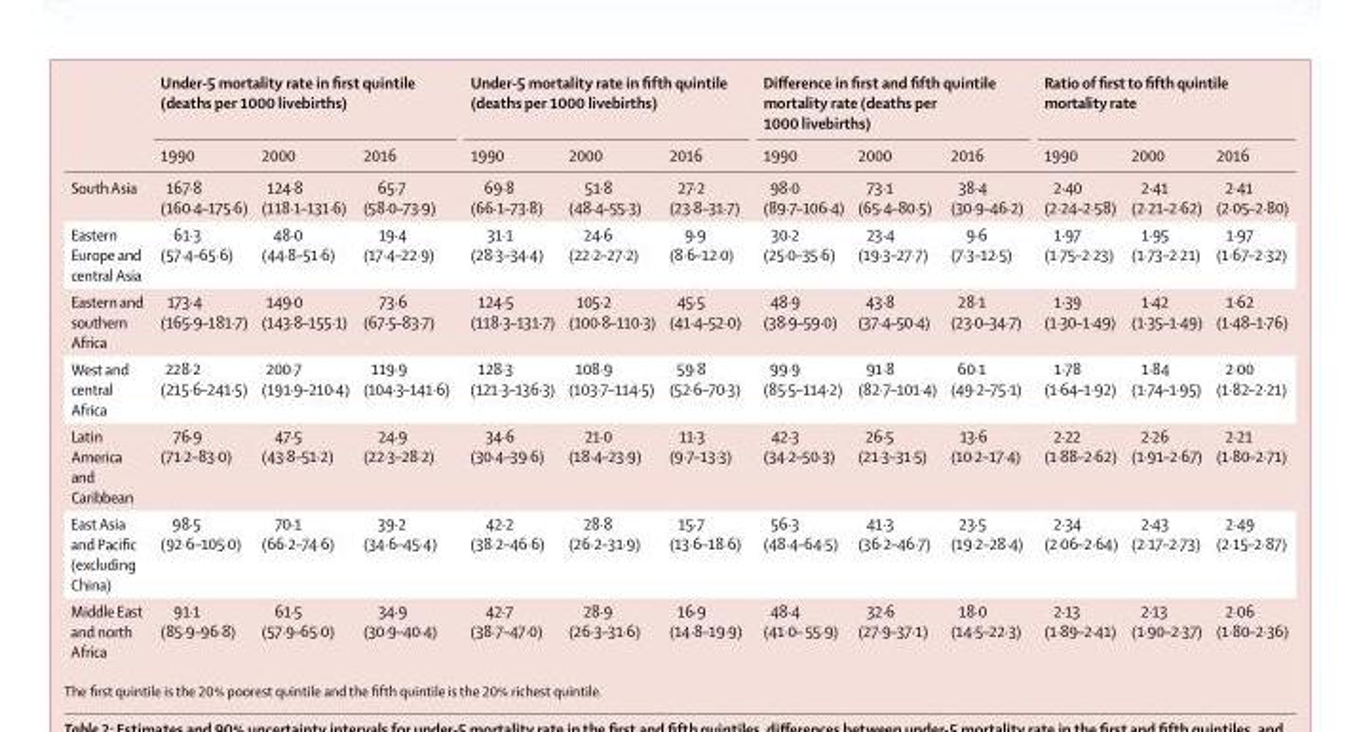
<table><thead><tr><td rowspan="2"></td><td colspan="3">Under-5 mortality rate in first quintile (deaths per 1000 livebirths)</td><td colspan="3">Under-5 mortality rate in fifth quintile (deaths per 1000 livebirths)</td><td colspan="3">Difference in first and fifth quintile mortality rate (deaths per 1000 livebirths)</td><td colspan="3">Ratio of first to fifth quintile mortality rate</td></tr><tr><td>1990</td><td>2000</td><td>2016</td><td>1990</td><td>2000</td><td>2016</td><td>1990</td><td>2000</td><td>2016</td><td>1990</td><td>2000</td><td>2016</td></tr></thead><tbody><tr><td>South Asia</td><td>167·8 (160·4–175·6)</td><td>124·8 (118·1–131·6)</td><td>65·7 (58·0–73·9)</td><td>69·8 (66·1–73·8)</td><td>51·8 (48·4–55·3)</td><td>27·2 (23·8–31·7)</td><td>98·0 (89·7–106·4)</td><td>73·1 (65·4–80·5)</td><td>38·4 (30·9–46·2)</td><td>2·40 (2·24–2·58)</td><td>2·41 (2·21–2·62)</td><td>2·41 (2·05–2·80)</td></tr><tr><td>Eastern Europe and central Asia</td><td>61·3 (57·4–65·6)</td><td>48·0 (44·8–51·6)</td><td>19·4 (17·4–22·9)</td><td>31·1 (28·3–34·4)</td><td>24·6 (22·2–27·2)</td><td>9·9 (8·6–12·0)</td><td>30·2 (25·0–35·6)</td><td>23·4 (19·3–27·7)</td><td>9·6 (7·3–12·5)</td><td>1·97 (1·75–2·23)</td><td>1·95 (1·73–2·21)</td><td>1·97 (1·67–2·32)</td></tr><tr><td>Eastern and southern Africa</td><td>173·4 (165·9–181·7)</td><td>149·0 (143·8–155·1)</td><td>73·6 (67·5–83·7)</td><td>124·5 (118·3–131·7)</td><td>105·2 (100·8–110·3)</td><td>45·5 (41·4–52·0)</td><td>48·9 (38·9–59·0)</td><td>43·8 (37·4–50·4)</td><td>28·1 (23·0–34·7)</td><td>1·39 (1·30–1·49)</td><td>1·42 (1·35–1·49)</td><td>1·62 (1·48–1·76)</td></tr><tr><td>West and central Africa</td><td>228·2 (215·6–241·5)</td><td>200·7 (191·9–210·4)</td><td>119·9 (104·3–141·6)</td><td>128·3 (121·3–136·3)</td><td>108·9 (103·7–114·5)</td><td>59·8 (52·6–70·3)</td><td>99·9 (85·5–114·2)</td><td>91·8 (82·7–101·4)</td><td>60·1 (49·2–75·1)</td><td>1·78 (1·64–1·92)</td><td>1·84 (1·74–1·95)</td><td>2·00 (1·82–2·21)</td></tr><tr><td>Latin America and Caribbean</td><td>76·9 (71·2–83·0)</td><td>47·5 (43·8–51·2)</td><td>24·9 (22·3–28·2)</td><td>34·6 (30·4–39·6)</td><td>21·0 (18·4–23·9)</td><td>11·3 (9·7–13·3)</td><td>42·3 (34·2–50·3)</td><td>26·5 (21·3–31·5)</td><td>13·6 (10·2–17·4)</td><td>2·22 (1·88–2·62)</td><td>2·26 (1·91–2·67)</td><td>2·21 (1·80–2·71)</td></tr><tr><td>East Asia and Pacific (excluding China)</td><td>98·5 (92·6–105·0)</td><td>70·1 (66·2–74·6)</td><td>39·2 (34·6–45·4)</td><td>42·2 (38·2–46·6)</td><td>28·8 (26·2–31·9)</td><td>15·7 (13·6–18·6)</td><td>56·3 (48·4–64·5)</td><td>41·3 (36·2–46·7)</td><td>23·5 (19·2–28·4)</td><td>2·34 (2·06–2·64)</td><td>2·43 (2·17–2·73)</td><td>2·49 (2·15–2·87)</td></tr><tr><td>Middle East and north Africa</td><td>91·1 (85·9–96·8)</td><td>61·5 (57·9–65·0)</td><td>34·9 (30·9–40·4)</td><td>42·7 (38·7–47·0)</td><td>28·9 (26·3–31·6)</td><td>16·9 (14·8–19·9)</td><td>48·4 (41·0– 55·9)</td><td>32·6 (27·9–37·1)</td><td>18·0 (14·5–22·3)</td><td>2·13 (1·89–2·41)</td><td>2·13 (1·90–2·37)</td><td>2·06 (1·80–2·36)</td></tr></tbody></table>